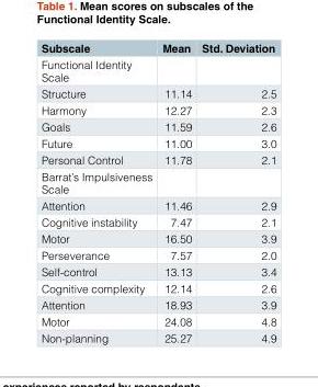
<table><thead><tr><td>Subscale</td><td>Mean</td><td>Std. Deviation</td></tr></thead><tbody><tr><td colspan="3">Functional Identity Scale</td></tr><tr><td>Structure</td><td>11.14</td><td>2.5</td></tr><tr><td>Harmony</td><td>12.27</td><td>2.3</td></tr><tr><td>Goals</td><td>11.59</td><td>2.6</td></tr><tr><td>Future</td><td>11.00</td><td>3.0</td></tr><tr><td>Personal Control</td><td>11.78</td><td>2.1</td></tr><tr><td colspan="3">Barrat’s Impulsiveness Scale</td></tr><tr><td>Attention</td><td>11.46</td><td>2.9</td></tr><tr><td>Cognitive instability</td><td>7.47</td><td>2.1</td></tr><tr><td>Motor</td><td>16.50</td><td>3.9</td></tr><tr><td>Perseverance</td><td>7.57</td><td>2.0</td></tr><tr><td>Self-control</td><td>13.13</td><td>3.4</td></tr><tr><td>Cognitive complexity</td><td>12.14</td><td>2.6</td></tr><tr><td>Attention</td><td>18.93</td><td>3.9</td></tr><tr><td>Motor</td><td>24.08</td><td>4.8</td></tr><tr><td>Non-planning</td><td>25.27</td><td>4.9</td></tr></tbody></table>